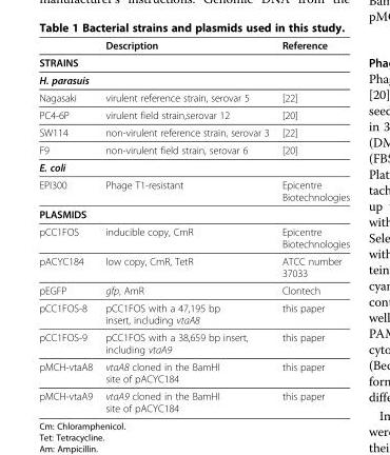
<table><thead><tr><td></td><td>Description</td><td>Reference</td></tr></thead><tbody><tr><td colspan="3">STRAINS</td></tr><tr><td colspan="3">H. parasuis</td></tr><tr><td>Nagasaki</td><td>virulent reference strain, serovar 5</td><td>[22]</td></tr><tr><td>PC4-6P</td><td>virulent field strain,serovar 12</td><td>[20]</td></tr><tr><td>SW114</td><td>non-virulent reference strain, serovar 3</td><td>[22]</td></tr><tr><td>F9</td><td>non-virulent field strain, serovar 6</td><td>[20]</td></tr><tr><td colspan="3">E. coli</td></tr><tr><td>EPI300</td><td>Phage T1-resistant</td><td>Epicentre Biotechnologies</td></tr><tr><td colspan="3">PLASMIDS</td></tr><tr><td>pCC1FOS</td><td>inducible copy, CmR</td><td>Epicentre Biotechnologies</td></tr><tr><td>pACYC184</td><td>low copy, CmR, TetR</td><td>ATCC number 37033</td></tr><tr><td>pEGFP</td><td>gfp, AmR</td><td>Clontech</td></tr><tr><td>pCC1FOS-8</td><td>pCC1FOS with a 47,195 bp insert, including vtaA8</td><td>this paper</td></tr><tr><td>pCC1FOS-9</td><td>pCC1FOS with a 38,659 bp insert, including vtaA9</td><td>this paper</td></tr><tr><td>pMCH-vtaA8</td><td>vtaA8 cloned in the BamHI site of pACYC184</td><td>this paper</td></tr><tr><td>pMCH-vtaA9</td><td>vtaA9 cloned in the BamHI site of pACYC184</td><td>this paper</td></tr></tbody></table>